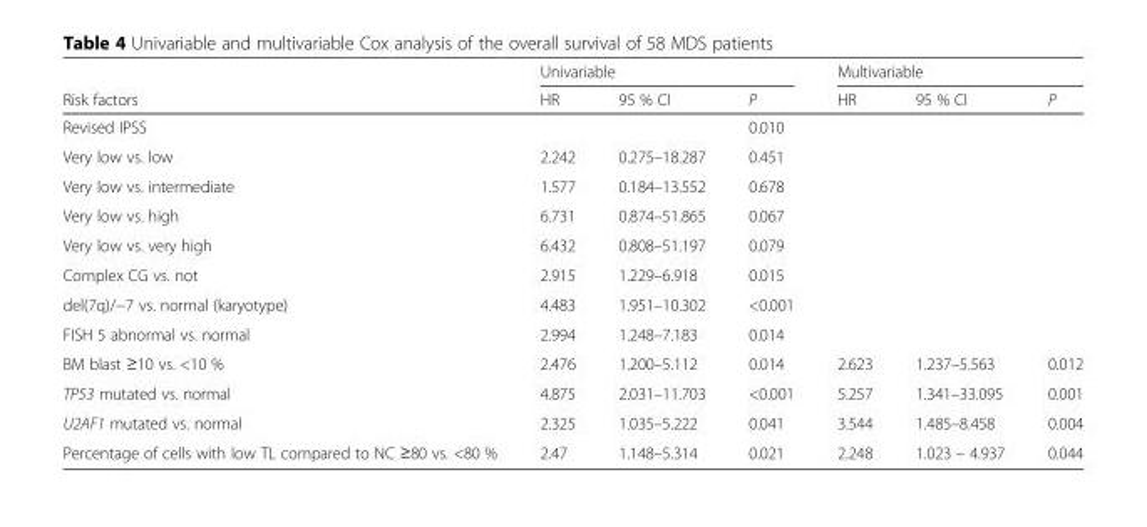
<table><thead><tr><td rowspan="2">Risk factors</td><td colspan="3">Univariable</td><td colspan="3">Multivariable</td></tr><tr><td>HR</td><td>95 % CI</td><td>P</td><td>HR</td><td>95 % CI</td><td>P</td></tr></thead><tbody><tr><td>Revised IPSS</td><td></td><td></td><td>0.010</td><td></td><td></td><td></td></tr><tr><td>Very low vs. low</td><td>2.242</td><td>0.275–18.287</td><td>0.451</td><td></td><td></td><td></td></tr><tr><td>Very low vs. intermediate</td><td>1.577</td><td>0.184–13.552</td><td>0.678</td><td></td><td></td><td></td></tr><tr><td>Very low vs. high</td><td>6.731</td><td>0.874–51.865</td><td>0.067</td><td></td><td></td><td></td></tr><tr><td>Very low vs. very high</td><td>6.432</td><td>0.808–51.197</td><td>0.079</td><td></td><td></td><td></td></tr><tr><td>Complex CG vs. not</td><td>2.915</td><td>1.229–6.918</td><td>0.015</td><td></td><td></td><td></td></tr><tr><td>del(7q)/−7 vs. normal (karyotype)</td><td>4.483</td><td>1.951–10.302</td><td>&lt;0.001</td><td></td><td></td><td></td></tr><tr><td>FISH 5 abnormal vs. normal</td><td>2.994</td><td>1.248–7.183</td><td>0.014</td><td></td><td></td><td></td></tr><tr><td>BM blast ≥10 vs. &lt;10 %</td><td>2.476</td><td>1.200–5.112</td><td>0.014</td><td>2.623</td><td>1.237–5.563</td><td>0.012</td></tr><tr><td>TP53 mutated vs. normal</td><td>4.875</td><td>2.031–11.703</td><td>&lt;0.001</td><td>5.257</td><td>1.341–33.095</td><td>0.001</td></tr><tr><td>U2AF1 mutated vs. normal</td><td>2.325</td><td>1.035–5.222</td><td>0.041</td><td>3.544</td><td>1.485–8.458</td><td>0.004</td></tr><tr><td>Percentage of cells with low TL compared to NC ≥80 vs. &lt;80 %</td><td>2.47</td><td>1.148–5.314</td><td>0.021</td><td>2.248</td><td>1.023 – 4.937</td><td>0.044</td></tr></tbody></table>